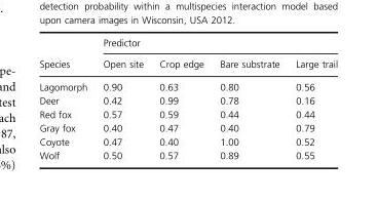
<table><thead><tr><td rowspan="2">Species</td><td colspan="4">Predictor</td></tr><tr><td>Open site</td><td>Crop edge</td><td>Bare substrate</td><td>Large trail</td></tr></thead><tbody><tr><td>Lagomorph</td><td>0.90</td><td>0.63</td><td>0.80</td><td>0.56</td></tr><tr><td>Deer</td><td>0.42</td><td>0.99</td><td>0.78</td><td>0.16</td></tr><tr><td>Red fox</td><td>0.57</td><td>0.59</td><td>0.44</td><td>0.44</td></tr><tr><td>Gray fox</td><td>0.40</td><td>0.47</td><td>0.40</td><td>0.79</td></tr><tr><td>Coyote</td><td>0.47</td><td>0.40</td><td>1.00</td><td>0.52</td></tr><tr><td>Wolf</td><td>0.50</td><td>0.57</td><td>0.89</td><td>0.55</td></tr></tbody></table>